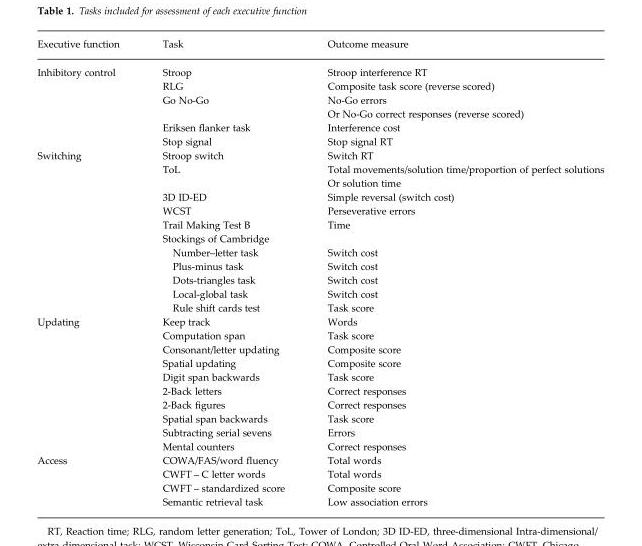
<table><thead><tr><td>Executive function</td><td>Task</td><td>Outcome measure</td></tr></thead><tbody><tr><td rowspan="6">Inhibitory control</td><td>Stroop</td><td>Stroop interference RT</td></tr><tr><td>RLG</td><td>Composite task score (reverse scored)</td></tr><tr><td>Go No-Go</td><td>No-Go errors</td></tr><tr><td></td><td>Or No-Go correct responses (reverse scored)</td></tr><tr><td>Eriksen flanker task</td><td>Interference cost</td></tr><tr><td>Stop signal</td><td>Stop signal RT</td></tr><tr><td rowspan="12">Switching</td><td>Stroop switch</td><td>Switch RT</td></tr><tr><td>ToL</td><td>Total movements/solution time/proportion of perfect solutions</td></tr><tr><td></td><td>Or solution time</td></tr><tr><td>3D ID-ED</td><td>Simple reversal (switch cost)</td></tr><tr><td>WCST</td><td>Perseverative errors</td></tr><tr><td>Trail Making Test B</td><td>Time</td></tr><tr><td>Stockings of Cambridge</td><td></td></tr><tr><td>Number–letter task</td><td>Switch cost</td></tr><tr><td>Plus-minus task</td><td>Switch cost</td></tr><tr><td>Dots-triangles task</td><td>Switch cost</td></tr><tr><td>Local-global task</td><td>Switch cost</td></tr><tr><td>Rule shift cards test</td><td>Task score</td></tr><tr><td rowspan="10">Updating</td><td>Keep track</td><td>Words</td></tr><tr><td>Computation span</td><td>Task score</td></tr><tr><td>Consonant/letter updating</td><td>Composite score</td></tr><tr><td>Spatial updating</td><td>Composite score</td></tr><tr><td>Digit span backwards</td><td>Task score</td></tr><tr><td>2-Back letters</td><td>Correct responses</td></tr><tr><td>2-Back figures</td><td>Correct responses</td></tr><tr><td>Spatial span backwards</td><td>Task score</td></tr><tr><td>Subtracting serial sevens</td><td>Errors</td></tr><tr><td>Mental counters</td><td>Correct responses</td></tr><tr><td rowspan="4">Access</td><td>COWA/FAS/word fluency</td><td>Total words</td></tr><tr><td>CWFT – C letter words</td><td>Total words</td></tr><tr><td>CWFT – standardized score</td><td>Composite score</td></tr><tr><td>Semantic retrieval task</td><td>Low association errors</td></tr></tbody></table>